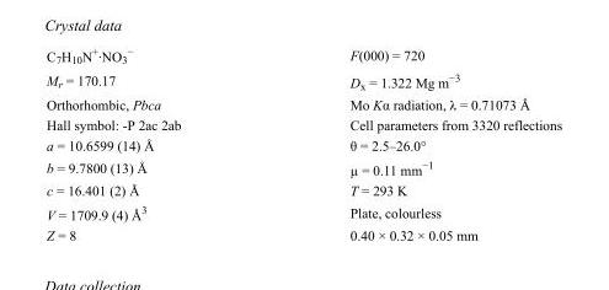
<table><tbody><tr><td>C<sub>7</sub>H<sub>10</sub>N<sup>+</sup>·NO<sub>3</sub> <sup>−</sup></td><td>F(000) = 720</td></tr><tr><td>M<sub>r</sub> = 170.17</td><td>D<sub>x</sub> = 1.322 Mg m<sup>−3</sup></td></tr><tr><td>Orthorhombic, Pbca</td><td>Mo Kα radiation, λ = 0.71073 Å</td></tr><tr><td>Hall symbol: -P 2ac 2ab</td><td>Cell parameters from 3320 reflections</td></tr><tr><td>a = 10.6599 (14) Å</td><td>θ = 2.5–26.0°</td></tr><tr><td>b = 9.7800 (13) Å</td><td>µ = 0.11 mm<sup>−1</sup></td></tr><tr><td>c = 16.401 (2) Å</td><td>T = 293 K</td></tr><tr><td>V = 1709.9 (4) Å<sup>3</sup></td><td>Plate, colourless</td></tr><tr><td>Z = 8</td><td>0.40 × 0.32 × 0.05 mm</td></tr></tbody></table>